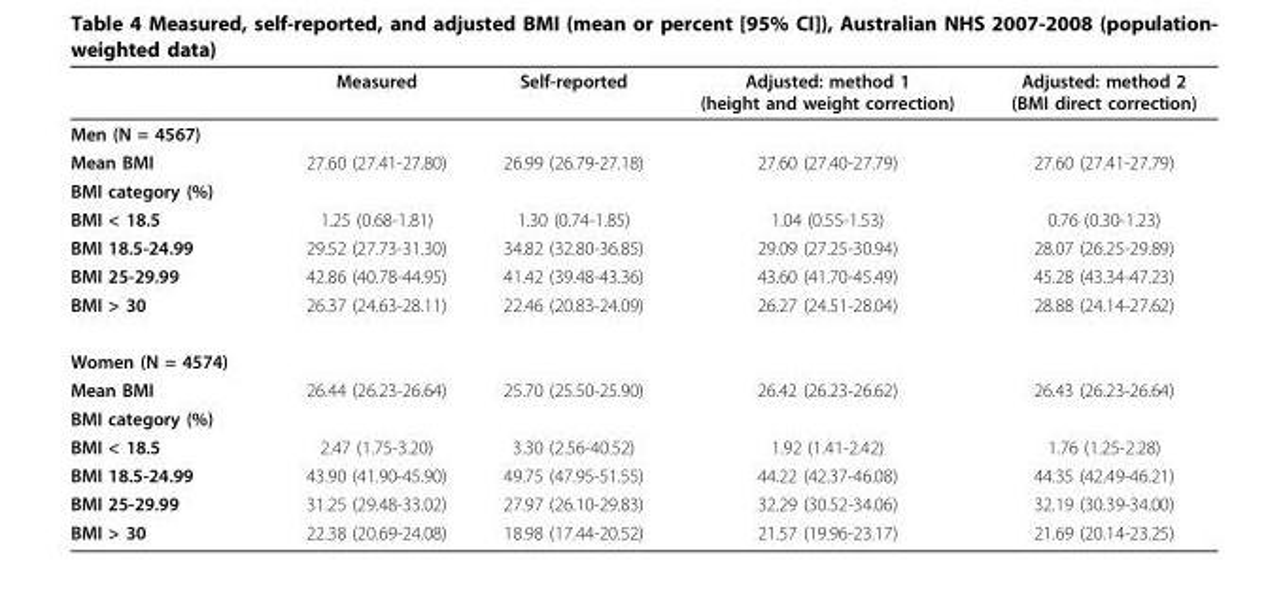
<table><thead><tr><td></td><td>Measured</td><td>Self-reported</td><td>Adjusted: method 1 (height and weight correction)</td><td>Adjusted: method 2 (BMI direct correction)</td></tr></thead><tbody><tr><td colspan="5">Men (N = 4567)</td></tr><tr><td>Mean BMI</td><td>27.60 (27.41-27.80)</td><td>26.99 (26.79-27.18)</td><td>27.60 (27.40-27.79)</td><td>27.60 (27.41-27.79)</td></tr><tr><td colspan="5">BMI category (%)</td></tr><tr><td>BMI &lt; 18.5</td><td>1.25 (0.68-1.81)</td><td>1.30 (0.74-1.85)</td><td>1.04 (0.55-1.53)</td><td>0.76 (0.30-1.23)</td></tr><tr><td>BMI 18.5-24.99</td><td>29.52 (27.73-31.30)</td><td>34.82 (32.80-36.85)</td><td>29.09 (27.25-30.94)</td><td>28.07 (26.25-29.89)</td></tr><tr><td>BMI 25-29.99</td><td>42.86 (40.78-44.95)</td><td>41.42 (39.48-43.36)</td><td>43.60 (41.70-45.49)</td><td>45.28 (43.34-47.23)</td></tr><tr><td>BMI &gt; 30</td><td>26.37 (24.63-28.11)</td><td>22.46 (20.83-24.09)</td><td>26.27 (24.51-28.04)</td><td>28.88 (24.14-27.62)</td></tr><tr><td colspan="5">Women (N = 4574)</td></tr><tr><td>Mean BMI</td><td>26.44 (26.23-26.64)</td><td>25.70 (25.50-25.90)</td><td>26.42 (26.23-26.62)</td><td>26.43 (26.23-26.64)</td></tr><tr><td colspan="5">BMI category (%)</td></tr><tr><td>BMI &lt; 18.5</td><td>2.47 (1.75-3.20)</td><td>3.30 (2.56-40.52)</td><td>1.92 (1.41-2.42)</td><td>1.76 (1.25-2.28)</td></tr><tr><td>BMI 18.5-24.99</td><td>43.90 (41.90-45.90)</td><td>49.75 (47.95-51.55)</td><td>44.22 (42.37-46.08)</td><td>44.35 (42.49-46.21)</td></tr><tr><td>BMI 25-29.99</td><td>31.25 (29.48-33.02)</td><td>27.97 (26.10-29.83)</td><td>32.29 (30.52-34.06)</td><td>32.19 (30.39-34.00)</td></tr><tr><td>BMI &gt; 30</td><td>22.38 (20.69-24.08)</td><td>18.98 (17.44-20.52)</td><td>21.57 (19.96-23.17)</td><td>21.69 (20.14-23.25)</td></tr></tbody></table>